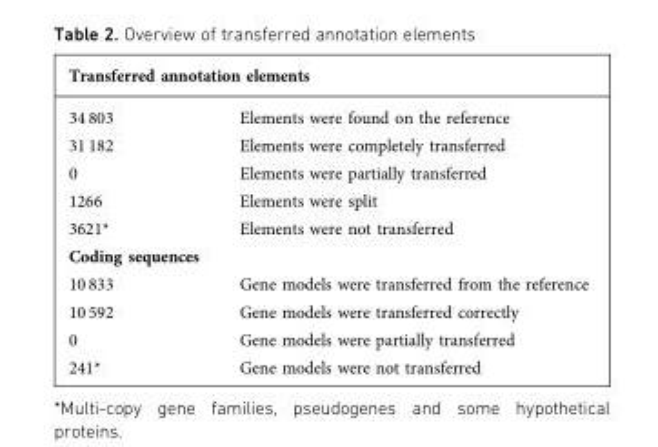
<table><thead><tr><td colspan="2">Transferred annotation elements</td></tr><tr><td>34 803</td><td>Elements were found on the reference</td></tr></thead><tbody><tr><td>31 182</td><td>Elements were completely transferred</td></tr><tr><td>0</td><td>Elements were partially transferred</td></tr><tr><td>1266</td><td>Elements were split</td></tr><tr><td>3621*</td><td>Elements were not transferred</td></tr><tr><td colspan="2">Coding sequences</td></tr><tr><td>10 833</td><td>Gene models were transferred from the reference</td></tr><tr><td>10 592</td><td>Gene models were transferred correctly</td></tr><tr><td>0</td><td>Gene models were partially transferred</td></tr><tr><td>241*</td><td>Gene models were not transferred</td></tr></tbody></table>